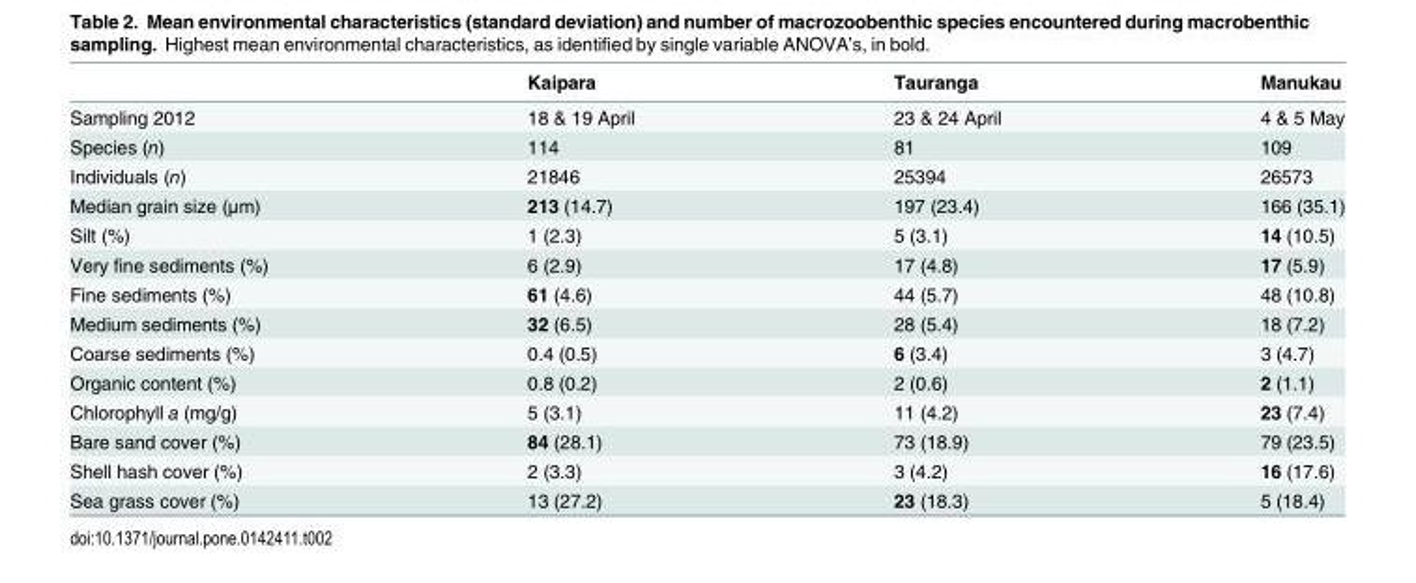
<table><thead><tr><td></td><td>Kaipara</td><td>Tauranga</td><td>Manukau</td></tr></thead><tbody><tr><td>Sampling 2012</td><td>18 &amp; 19 April</td><td>23 &amp; 24 April</td><td>4 &amp; 5 May</td></tr><tr><td>Species (n)</td><td>114</td><td>81</td><td>109</td></tr><tr><td>Individuals (n)</td><td>21846</td><td>25394</td><td>26573</td></tr><tr><td>Median grain size (μm)</td><td>213 (14.7)</td><td>197 (23.4)</td><td>166 (35.1)</td></tr><tr><td>Silt (%)</td><td>1 (2.3)</td><td>5 (3.1)</td><td>14 (10.5)</td></tr><tr><td>Very fine sediments (%)</td><td>6 (2.9)</td><td>17 (4.8)</td><td>17 (5.9)</td></tr><tr><td>Fine sediments (%)</td><td>61 (4.6)</td><td>44 (5.7)</td><td>48 (10.8)</td></tr><tr><td>Medium sediments (%)</td><td>32 (6.5)</td><td>28 (5.4)</td><td>18 (7.2)</td></tr><tr><td>Coarse sediments (%)</td><td>0.4 (0.5)</td><td>6 (3.4)</td><td>3 (4.7)</td></tr><tr><td>Organic content (%)</td><td>0.8 (0.2)</td><td>2 (0.6)</td><td>2 (1.1)</td></tr><tr><td>Chlorophyll a (mg/g)</td><td>5 (3.1)</td><td>11 (4.2)</td><td>23 (7.4)</td></tr><tr><td>Bare sand cover (%)</td><td>84 (28.1)</td><td>73 (18.9)</td><td>79 (23.5)</td></tr><tr><td>Shell hash cover (%)</td><td>2 (3.3)</td><td>3 (4.2)</td><td>16 (17.6)</td></tr><tr><td>Sea grass cover (%)</td><td>13 (27.2)</td><td>23 (18.3)</td><td>5 (18.4)</td></tr></tbody></table>